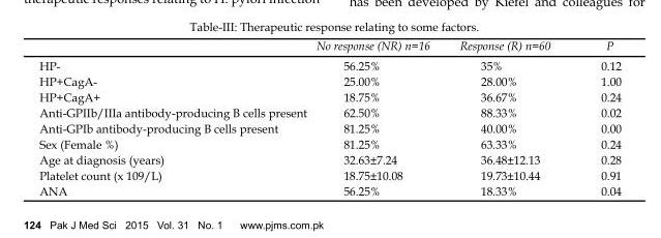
<table><thead><tr><td></td><td>No response (NR) n=16</td><td>Response (R) n=60</td><td>P</td></tr></thead><tbody><tr><td>HP-</td><td>56.25%</td><td>35%</td><td>0.12</td></tr><tr><td>HP+CagA-</td><td>25.00%</td><td>28.00%</td><td>1.00</td></tr><tr><td>HP+CagA+</td><td>18.75%</td><td>36.67%</td><td>0.24</td></tr><tr><td>Anti-GPIIb/IIIa antibody-producing B cells present</td><td>62.50%</td><td>88.33%</td><td>0.02</td></tr><tr><td>Anti-GPIb antibody-producing B cells present</td><td>81.25%</td><td>40.00%</td><td>0.00</td></tr><tr><td>Sex (Female %)</td><td>81.25%</td><td>63.33%</td><td>0.24</td></tr><tr><td>Age at diagnosis (years)</td><td>32.63±7.24</td><td>36.48±12.13</td><td>0.28</td></tr><tr><td>Platelet count (x 109/L)</td><td>18.75±10.08</td><td>19.73±10.44</td><td>0.91</td></tr><tr><td>ANA</td><td>56.25%</td><td>18.33%</td><td>0.04</td></tr></tbody></table>